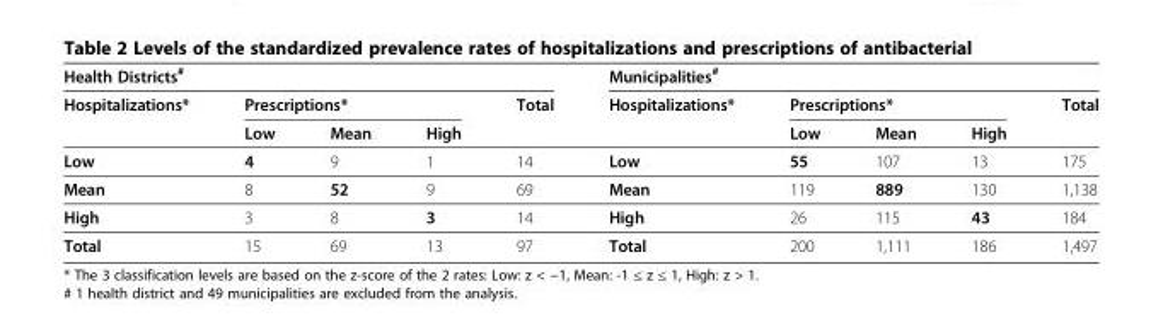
<table><thead><tr><td colspan="5">Health Districts<sup>#</sup></td><td colspan="5">Municipalities<sup>#</sup></td></tr><tr><td rowspan="2">Hospitalizations*</td><td colspan="3">Prescriptions*</td><td rowspan="2">Total</td><td rowspan="2">Hospitalizations*</td><td colspan="3">Prescriptions*</td><td rowspan="2">Total</td></tr><tr><td>Low</td><td>Mean</td><td>High</td><td>Low</td><td>Mean</td><td>High</td></tr></thead><tbody><tr><td>Low</td><td>4</td><td>9</td><td>1</td><td>14</td><td>Low</td><td>55</td><td>107</td><td>13</td><td>175</td></tr><tr><td>Mean</td><td>8</td><td>52</td><td>9</td><td>69</td><td>Mean</td><td>119</td><td>889</td><td>130</td><td>1,138</td></tr><tr><td>High</td><td>3</td><td>8</td><td>3</td><td>14</td><td>High</td><td>26</td><td>115</td><td>43</td><td>184</td></tr><tr><td>Total</td><td>15</td><td>69</td><td>13</td><td>97</td><td>Total</td><td>200</td><td>1,111</td><td>186</td><td>1,497</td></tr></tbody></table>